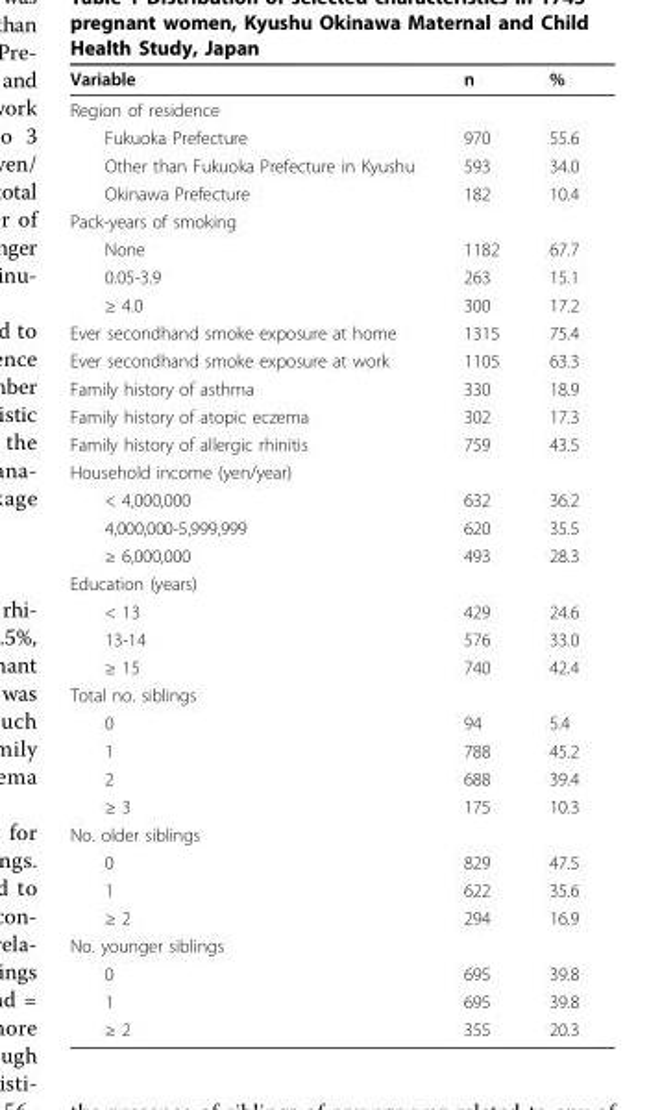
<table><thead><tr><td>Variable</td><td>n</td><td>%</td></tr></thead><tbody><tr><td colspan="3">Region of residence</td></tr><tr><td>Fukuoka Prefecture</td><td>970</td><td>55.6</td></tr><tr><td>Other than Fukuoka Prefecture in Kyushu</td><td>593</td><td>34.0</td></tr><tr><td>Okinawa Prefecture</td><td>182</td><td>10.4</td></tr><tr><td colspan="3">Pack-years of smoking</td></tr><tr><td>None</td><td>1182</td><td>67.7</td></tr><tr><td>0.05-3.9</td><td>263</td><td>15.1</td></tr><tr><td>≥ 4.0</td><td>300</td><td>17.2</td></tr><tr><td>Ever secondhand smoke exposure at home</td><td>1315</td><td>75.4</td></tr><tr><td>Ever secondhand smoke exposure at work</td><td>1105</td><td>63.3</td></tr><tr><td>Family history of asthma</td><td>330</td><td>18.9</td></tr><tr><td>Family history of atopic eczema</td><td>302</td><td>17.3</td></tr><tr><td>Family history of allergic rhinitis</td><td>759</td><td>43.5</td></tr><tr><td colspan="3">Household income (yen/year)</td></tr><tr><td>&lt; 4,000,000</td><td>632</td><td>36.2</td></tr><tr><td>4,000,000-5,999,999</td><td>620</td><td>35.5</td></tr><tr><td>≥ 6,000,000</td><td>493</td><td>28.3</td></tr><tr><td colspan="3">Education (years)</td></tr><tr><td>&lt; 13</td><td>429</td><td>24.6</td></tr><tr><td>13-14</td><td>576</td><td>33.0</td></tr><tr><td>≥ 15</td><td>740</td><td>42.4</td></tr><tr><td colspan="3">Total no. siblings</td></tr><tr><td>0</td><td>94</td><td>5.4</td></tr><tr><td>1</td><td>788</td><td>45.2</td></tr><tr><td>2</td><td>688</td><td>39.4</td></tr><tr><td>≥ 3</td><td>175</td><td>10.3</td></tr><tr><td colspan="3">No. older siblings</td></tr><tr><td>0</td><td>829</td><td>47.5</td></tr><tr><td>1</td><td>622</td><td>35.6</td></tr><tr><td>≥ 2</td><td>294</td><td>16.9</td></tr><tr><td colspan="3">No. younger siblings</td></tr><tr><td>0</td><td>695</td><td>39.8</td></tr><tr><td>1</td><td>695</td><td>39.8</td></tr><tr><td>≥ 2</td><td>355</td><td>20.3</td></tr></tbody></table>